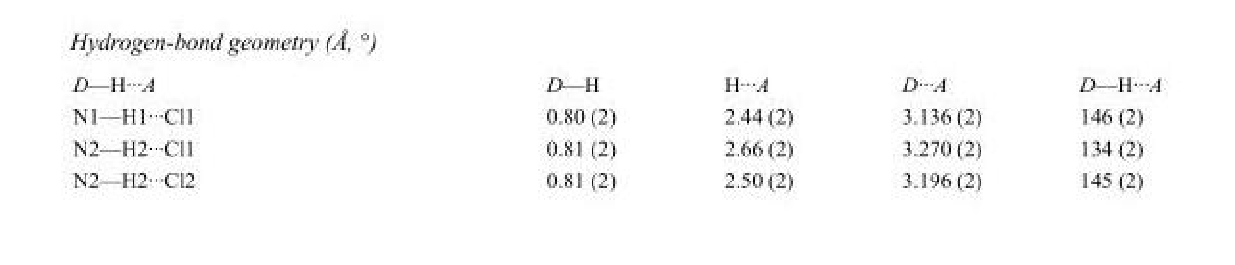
<table><tbody><tr><td>D—H···A</td><td>D—H</td><td>H···A</td><td>D···A</td><td>D—H···A</td></tr><tr><td>N1—H1···Cl1</td><td>0.80 (2)</td><td>2.44 (2)</td><td>3.136 (2)</td><td>146 (2)</td></tr><tr><td>N2—H2···Cl1</td><td>0.81 (2)</td><td>2.66 (2)</td><td>3.270 (2)</td><td>134 (2)</td></tr><tr><td>N2—H2···Cl2</td><td>0.81 (2)</td><td>2.50 (2)</td><td>3.196 (2)</td><td>145 (2)</td></tr></tbody></table>